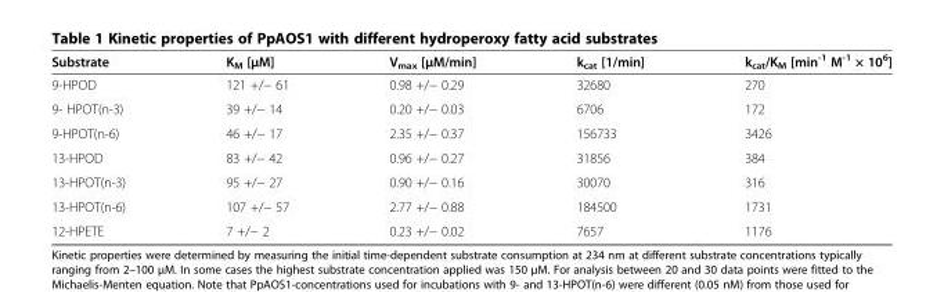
<table><thead><tr><td>Substrate</td><td>K<sub>M</sub> [μM]</td><td>V<sub>max</sub> [μM/min]</td><td>k<sub>cat</sub> [1/min]</td><td>k<sub>cat</sub>/K<sub>M</sub> [min<sup>-1</sup> M<sup>-1</sup> × 10<sup>6</sup>]</td></tr></thead><tbody><tr><td>9-HPOD</td><td>121 +/− 61</td><td>0.98 +/− 0.29</td><td>32680</td><td>270</td></tr><tr><td>9- HPOT(n-3)</td><td>39 +/− 14</td><td>0.20 +/− 0.03</td><td>6706</td><td>172</td></tr><tr><td>9-HPOT(n-6)</td><td>46 +/− 17</td><td>2.35 +/− 0.37</td><td>156733</td><td>3426</td></tr><tr><td>13-HPOD</td><td>83 +/− 42</td><td>0.96 +/− 0.27</td><td>31856</td><td>384</td></tr><tr><td>13-HPOT(n-3)</td><td>95 +/− 27</td><td>0.90 +/− 0.16</td><td>30070</td><td>316</td></tr><tr><td>13-HPOT(n-6)</td><td>107 +/− 57</td><td>2.77 +/− 0.88</td><td>184500</td><td>1731</td></tr><tr><td>12-HPETE</td><td>7 +/− 2</td><td>0.23 +/− 0.02</td><td>7657</td><td>1176</td></tr></tbody></table>